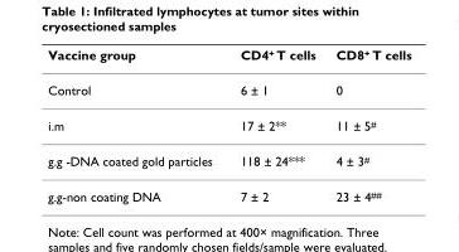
<table><thead><tr><td>Vaccine group</td><td>CD4<sup>+</sup> T cells</td><td>CD8<sup>+</sup> T cells</td></tr></thead><tbody><tr><td>Control</td><td>6 ± 1</td><td>0</td></tr><tr><td>i.m</td><td>17 ± 2**</td><td>11 ± 5<sup>#</sup></td></tr><tr><td>g.g -DNA coated gold particles</td><td>118 ± 24***</td><td>4 ± 3<sup>#</sup></td></tr><tr><td>g.g-non coating DNA</td><td>7 ± 2</td><td>23 ± 4<sup>##</sup></td></tr></tbody></table>